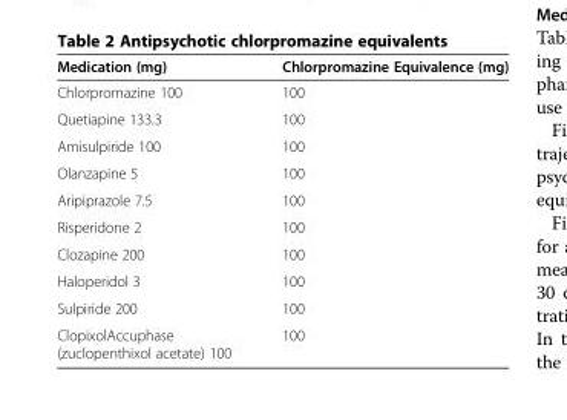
<table><thead><tr><td>Medication (mg)</td><td>Chlorpromazine Equivalence (mg)</td></tr></thead><tbody><tr><td>Chlorpromazine 100</td><td>100</td></tr><tr><td>Quetiapine 133.3</td><td>100</td></tr><tr><td>Amisulpiride 100</td><td>100</td></tr><tr><td>Olanzapine 5</td><td>100</td></tr><tr><td>Aripiprazole 7.5</td><td>100</td></tr><tr><td>Risperidone 2</td><td>100</td></tr><tr><td>Clozapine 200</td><td>100</td></tr><tr><td>Haloperidol 3</td><td>100</td></tr><tr><td>Sulpiride 200</td><td>100</td></tr><tr><td>ClopixolAccuphase (zuclopenthixol acetate) 100</td><td>100</td></tr></tbody></table>